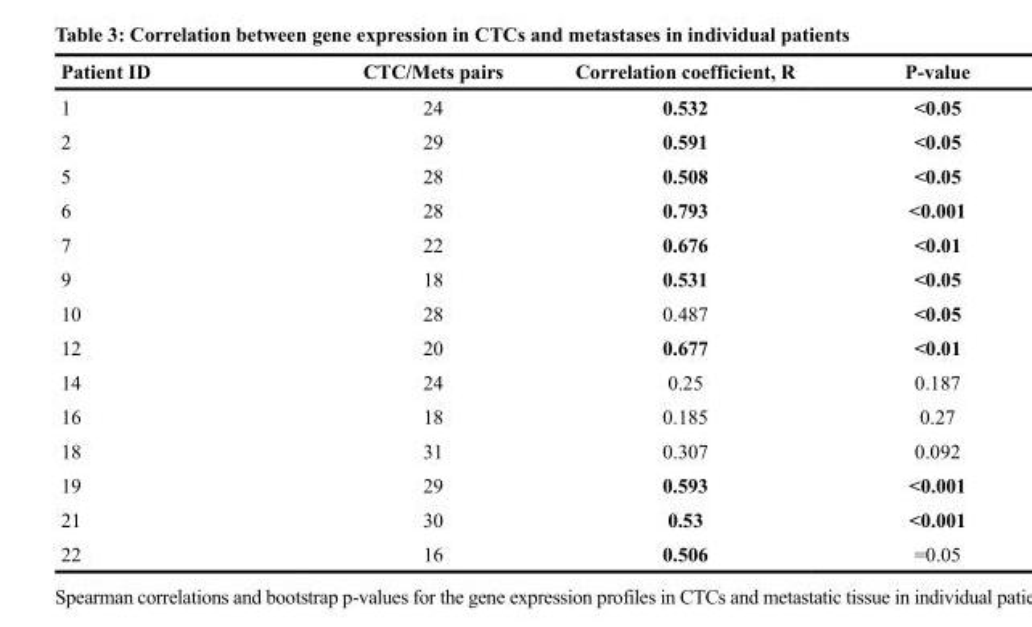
<table><thead><tr><td>Patient ID</td><td>CTC/Mets pairs</td><td>Correlation coefficient, R</td><td>P-value</td></tr></thead><tbody><tr><td>1</td><td>24</td><td>0.532</td><td>&lt;0.05</td></tr><tr><td>2</td><td>29</td><td>0.591</td><td>&lt;0.05</td></tr><tr><td>5</td><td>28</td><td>0.508</td><td>&lt;0.05</td></tr><tr><td>6</td><td>28</td><td>0.793</td><td>&lt;0.001</td></tr><tr><td>7</td><td>22</td><td>0.676</td><td>&lt;0.01</td></tr><tr><td>9</td><td>18</td><td>0.531</td><td>&lt;0.05</td></tr><tr><td>10</td><td>28</td><td>0.487</td><td>&lt;0.05</td></tr><tr><td>12</td><td>20</td><td>0.677</td><td>&lt;0.01</td></tr><tr><td>14</td><td>24</td><td>0.25</td><td>0.187</td></tr><tr><td>16</td><td>18</td><td>0.185</td><td>0.27</td></tr><tr><td>18</td><td>31</td><td>0.307</td><td>0.092</td></tr><tr><td>19</td><td>29</td><td>0.593</td><td>&lt;0.001</td></tr><tr><td>21</td><td>30</td><td>0.53</td><td>&lt;0.001</td></tr><tr><td>22</td><td>16</td><td>0.506</td><td>=0.05</td></tr></tbody></table>